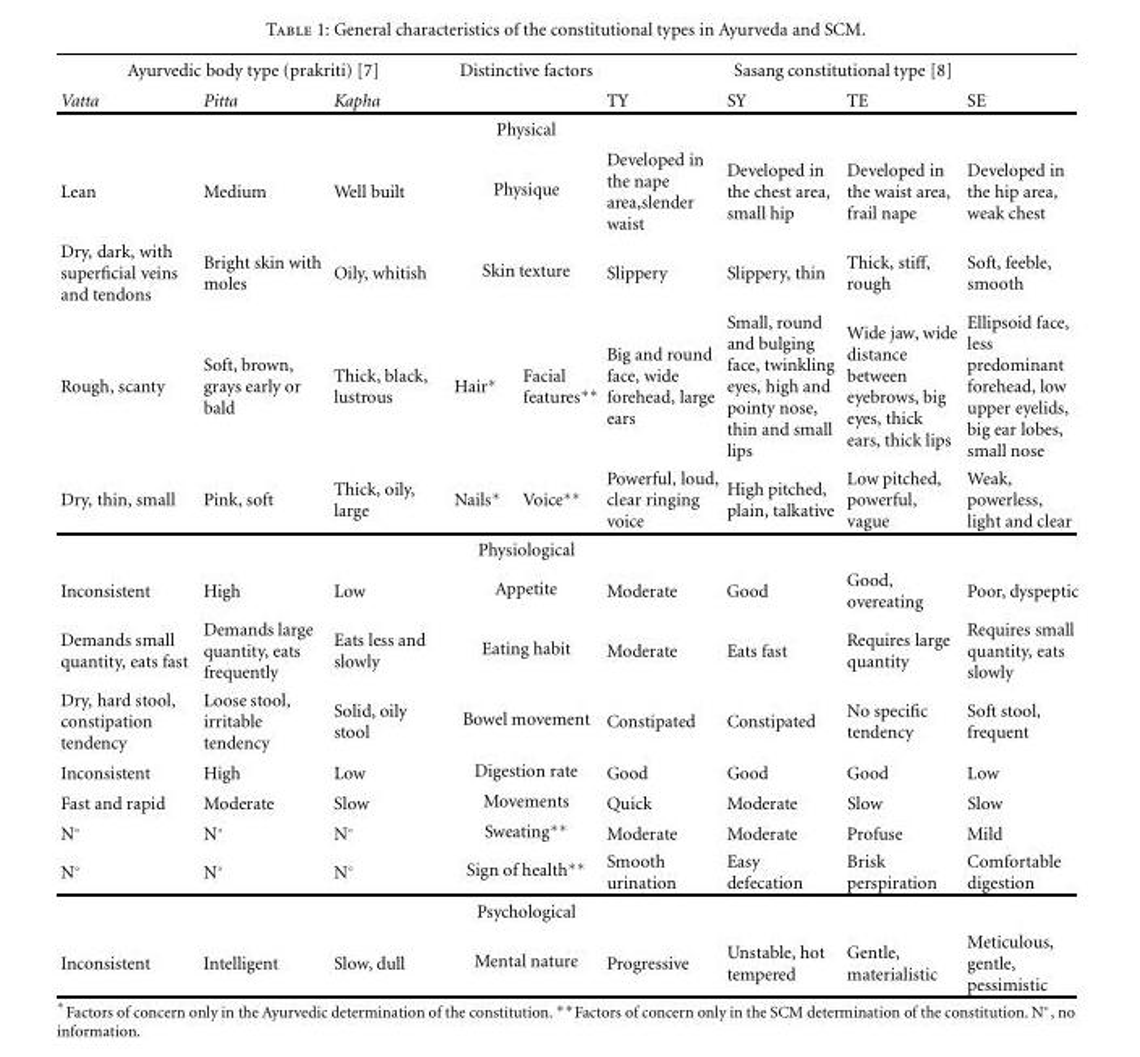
<table><thead><tr><td colspan="3">Ayurvedic body type (prakriti) [7]</td><td colspan="2">Distinctive factors</td><td colspan="4">Sasang constitutional type [8]</td></tr><tr><td>Vatta</td><td>Pitta</td><td>Kapha</td><td></td><td></td><td>TY</td><td>SY</td><td>TE</td><td>SE</td></tr></thead><tbody><tr><td></td><td></td><td></td><td colspan="2">Physical</td><td></td><td></td><td></td><td></td></tr><tr><td>Lean</td><td>Medium</td><td>Well built</td><td colspan="2">Physique</td><td>Developed in the nape area,slender waist</td><td>Developed in the chest area, small hip</td><td>Developed in the waist area, frail nape</td><td>Developed in the hip area, weak chest</td></tr><tr><td>Dry, dark, with superficial veins and tendons</td><td>Bright skin with moles</td><td>Oily, whitish</td><td colspan="2">Skin texture</td><td>Slippery</td><td>Slippery, thin</td><td>Thick, stiff, rough</td><td>Soft, feeble, smooth</td></tr><tr><td>Rough, scanty</td><td>Soft, brown, grays early or bald</td><td>Thick, black, lustrous</td><td>Hair∗</td><td>Facial features∗∗</td><td>Big and round face, wide forehead, large ears</td><td>Small, round and bulging face, twinkling eyes, high and pointy nose, thin and small lips</td><td>Wide jaw, wide distance between eyebrows, big eyes, thick ears, thick lips</td><td>Ellipsoid face, less predominant forehead, low upper eyelids, big ear lobes, small nose</td></tr><tr><td rowspan="2">Dry, thin, small</td><td>Pink, soft</td><td>Thick, oily, large</td><td>Nails∗</td><td>Voice∗∗</td><td>Powerful, loud, clear ringing voice</td><td>High pitched, plain, talkative</td><td>Low pitched, powerful, vague</td><td>Weak, powerless, light and clear</td></tr><tr><td></td><td></td><td colspan="2">Physiological</td><td></td><td></td><td></td><td></td></tr><tr><td>Inconsistent</td><td>High</td><td>Low</td><td colspan="2">Appetite</td><td>Moderate</td><td>Good</td><td>Good, overeating</td><td>Poor, dyspeptic</td></tr><tr><td>Demands small quantity, eats fast</td><td>Demands large quantity, eats frequently</td><td>Eats less and slowly</td><td colspan="2">Eating habit</td><td>Moderate</td><td>Eats fast</td><td>Requires large quantity</td><td>Requires small quantity, eats slowly</td></tr><tr><td>Dry, hard stool, constipation tendency</td><td>Loose stool, irritable tendency</td><td>Solid, oily stool</td><td colspan="2">Bowel movement</td><td>Constipated</td><td>Constipated</td><td>No specific tendency</td><td>Soft stool, frequent</td></tr><tr><td>Inconsistent</td><td>High</td><td>Low</td><td colspan="2">Digestion rate</td><td>Good</td><td>Good</td><td>Good</td><td>Low</td></tr><tr><td>Fast and rapid</td><td>Moderate</td><td>Slow</td><td colspan="2">Movements</td><td>Quick</td><td>Moderate</td><td>Slow</td><td>Slow</td></tr><tr><td>N◦</td><td>N◦</td><td>N◦</td><td colspan="2">Sweating∗∗</td><td>Moderate</td><td>Moderate</td><td>Profuse</td><td>Mild</td></tr><tr><td rowspan="2">N◦</td><td>N◦</td><td>N◦</td><td colspan="2">Sign of health∗∗</td><td>Smooth urination</td><td>Easy defecation</td><td>Brisk perspiration</td><td>Comfortable digestion</td></tr><tr><td></td><td></td><td colspan="2">Psychological</td><td></td><td></td><td></td><td></td></tr><tr><td>Inconsistent</td><td>Intelligent</td><td>Slow, dull</td><td colspan="2">Mental nature</td><td>Progressive</td><td>Unstable, hot tempered</td><td>Gentle, materialistic</td><td>Meticulous, gentle, pessimistic</td></tr></tbody></table>